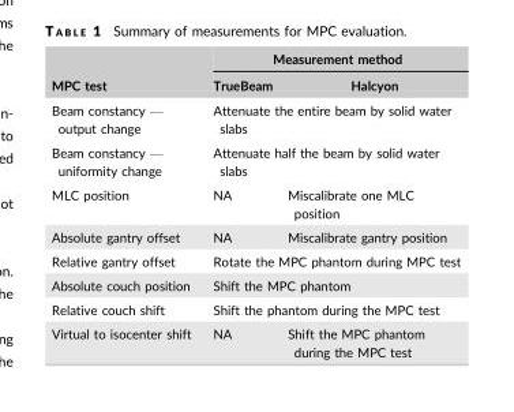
<table><thead><tr><td rowspan="2">MPC test</td><td colspan="2">Measurement method</td></tr><tr><td>TrueBeam</td><td>Halcyon</td></tr></thead><tbody><tr><td>Beam constancy — output change</td><td colspan="2">Attenuate the entire beam by solid water slabs</td></tr><tr><td>Beam constancy — uniformity change</td><td colspan="2">Attenuate half the beam by solid water slabs</td></tr><tr><td>MLC position</td><td>NA</td><td>Miscalibrate one MLC position</td></tr><tr><td>Absolute gantry offset</td><td>NA</td><td>Miscalibrate gantry position</td></tr><tr><td>Relative gantry offset</td><td colspan="2">Rotate the MPC phantom during MPC test</td></tr><tr><td>Absolute couch position</td><td colspan="2">Shift the MPC phantom</td></tr><tr><td>Relative couch shift</td><td colspan="2">Shift the phantom during the MPC test</td></tr><tr><td>Virtual to isocenter shift</td><td>NA</td><td>Shift the MPC phantom during the MPC test</td></tr></tbody></table>